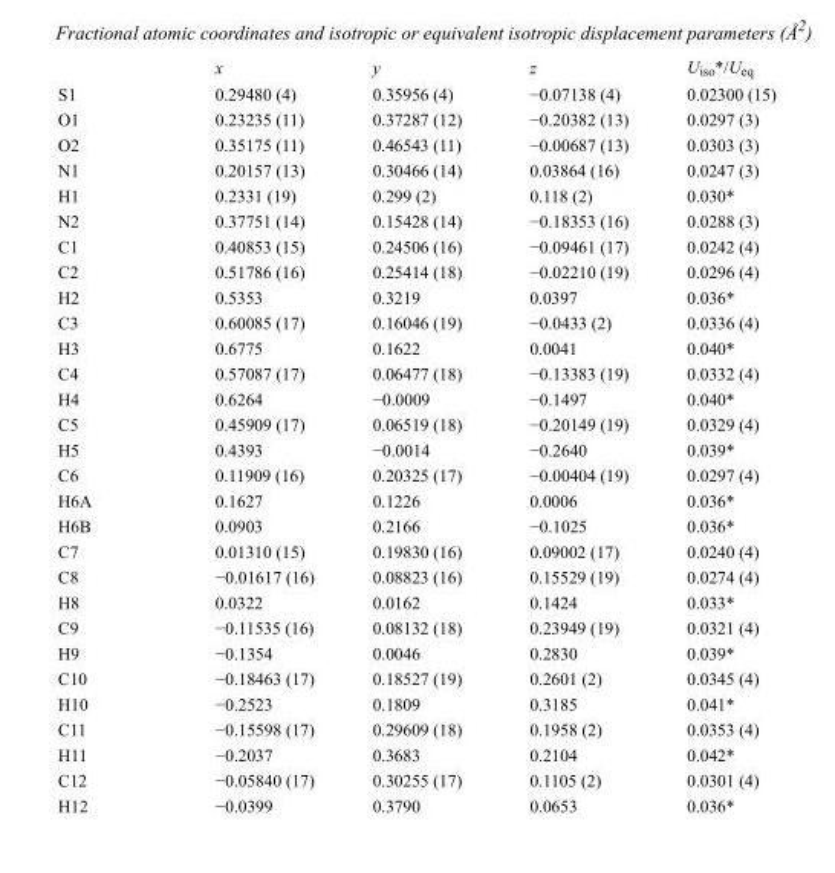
<table><thead><tr><td></td><td>x</td><td>y</td><td>z</td><td>U<sub>iso</sub>*/U<sub>eq</sub></td></tr></thead><tbody><tr><td>S1</td><td>0.29480 (4)</td><td>0.35956 (4)</td><td>−0.07138 (4)</td><td>0.02300 (15)</td></tr><tr><td>O1</td><td>0.23235 (11)</td><td>0.37287 (12)</td><td>−0.20382 (13)</td><td>0.0297 (3)</td></tr><tr><td>O2</td><td>0.35175 (11)</td><td>0.46543 (11)</td><td>−0.00687 (13)</td><td>0.0303 (3)</td></tr><tr><td>N1</td><td>0.20157 (13)</td><td>0.30466 (14)</td><td>0.03864 (16)</td><td>0.0247 (3)</td></tr><tr><td>H1</td><td>0.2331 (19)</td><td>0.299 (2)</td><td>0.118 (2)</td><td>0.030*</td></tr><tr><td>N2</td><td>0.37751 (14)</td><td>0.15428 (14)</td><td>−0.18353 (16)</td><td>0.0288 (3)</td></tr><tr><td>C1</td><td>0.40853 (15)</td><td>0.24506 (16)</td><td>−0.09461 (17)</td><td>0.0242 (4)</td></tr><tr><td>C2</td><td>0.51786 (16)</td><td>0.25414 (18)</td><td>−0.02210 (19)</td><td>0.0296 (4)</td></tr><tr><td>H2</td><td>0.5353</td><td>0.3219</td><td>0.0397</td><td>0.036*</td></tr><tr><td>C3</td><td>0.60085 (17)</td><td>0.16046 (19)</td><td>−0.0433 (2)</td><td>0.0336 (4)</td></tr><tr><td>H3</td><td>0.6775</td><td>0.1622</td><td>0.0041</td><td>0.040*</td></tr><tr><td>C4</td><td>0.57087 (17)</td><td>0.06477 (18)</td><td>−0.13383 (19)</td><td>0.0332 (4)</td></tr><tr><td>H4</td><td>0.6264</td><td>−0.0009</td><td>−0.1497</td><td>0.040*</td></tr><tr><td>C5</td><td>0.45909 (17)</td><td>0.06519 (18)</td><td>−0.20149 (19)</td><td>0.0329 (4)</td></tr><tr><td>H5</td><td>0.4393</td><td>−0.0014</td><td>−0.2640</td><td>0.039*</td></tr><tr><td>C6</td><td>0.11909 (16)</td><td>0.20325 (17)</td><td>−0.00404 (19)</td><td>0.0297 (4)</td></tr><tr><td>H6A</td><td>0.1627</td><td>0.1226</td><td>0.0006</td><td>0.036*</td></tr><tr><td>H6B</td><td>0.0903</td><td>0.2166</td><td>−0.1025</td><td>0.036*</td></tr><tr><td>C7</td><td>0.01310 (15)</td><td>0.19830 (16)</td><td>0.09002 (17)</td><td>0.0240 (4)</td></tr><tr><td>C8</td><td>−0.01617 (16)</td><td>0.08823 (16)</td><td>0.15529 (19)</td><td>0.0274 (4)</td></tr><tr><td>H8</td><td>0.0322</td><td>0.0162</td><td>0.1424</td><td>0.033*</td></tr><tr><td>C9</td><td>−0.11535 (16)</td><td>0.08132 (18)</td><td>0.23949 (19)</td><td>0.0321 (4)</td></tr><tr><td>H9</td><td>−0.1354</td><td>0.0046</td><td>0.2830</td><td>0.039*</td></tr><tr><td>C10</td><td>−0.18463 (17)</td><td>0.18527 (19)</td><td>0.2601 (2)</td><td>0.0345 (4)</td></tr><tr><td>H10</td><td>−0.2523</td><td>0.1809</td><td>0.3185</td><td>0.041*</td></tr><tr><td>C11</td><td>−0.15598 (17)</td><td>0.29609 (18)</td><td>0.1958 (2)</td><td>0.0353 (4)</td></tr><tr><td>H11</td><td>−0.2037</td><td>0.3683</td><td>0.2104</td><td>0.042*</td></tr><tr><td>C12</td><td>−0.05840 (17)</td><td>0.30255 (17)</td><td>0.1105 (2)</td><td>0.0301 (4)</td></tr><tr><td>H12</td><td>−0.0399</td><td>0.3790</td><td>0.0653</td><td>0.036*</td></tr></tbody></table>